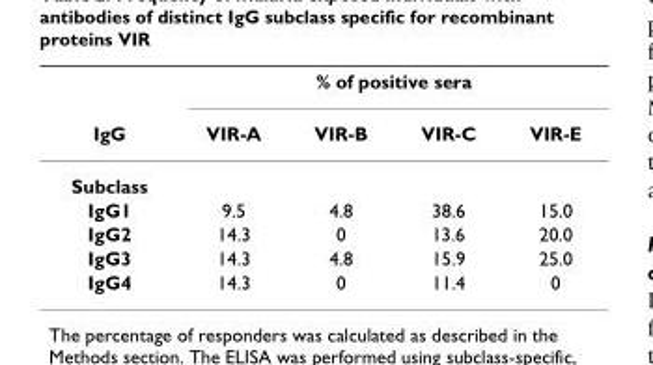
<table><thead><tr><td rowspan="2">IgG</td><td colspan="4">% of positive sera</td></tr><tr><td>VIR-A</td><td>VIR-B</td><td>VIR-C</td><td>VIR-E</td></tr></thead><tbody><tr><td colspan="5">Subclass</td></tr><tr><td>IgG1</td><td>9.5</td><td>4.8</td><td>38.6</td><td>15.0</td></tr><tr><td>IgG2</td><td>14.3</td><td>0</td><td>13.6</td><td>20.0</td></tr><tr><td>IgG3</td><td>14.3</td><td>4.8</td><td>15.9</td><td>25.0</td></tr><tr><td>IgG4</td><td>14.3</td><td>0</td><td>11.4</td><td>0</td></tr></tbody></table>